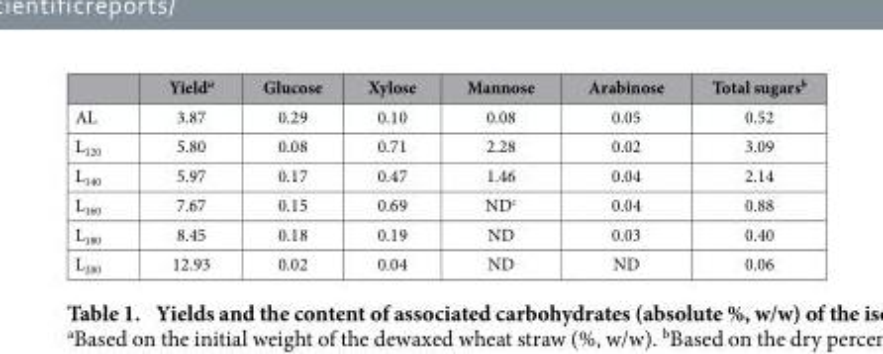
<table><thead><tr><td></td><td>Yield<sup>a</sup></td><td>Glucose</td><td>Xylose</td><td>Mannose</td><td>Arabinose</td><td>Total sugars<sup>b</sup></td></tr></thead><tbody><tr><td>AL</td><td>3.87</td><td>0.29</td><td>0.10</td><td>0.08</td><td>0.05</td><td>0.52</td></tr><tr><td>L<sub>120</sub></td><td>5.80</td><td>0.08</td><td>0.71</td><td>2.28</td><td>0.02</td><td>3.09</td></tr><tr><td>L<sub>140</sub></td><td>5.97</td><td>0.17</td><td>0.47</td><td>1.46</td><td>0.04</td><td>2.14</td></tr><tr><td>L<sub>160</sub></td><td>7.67</td><td>0.15</td><td>0.69</td><td>ND<sup>c</sup></td><td>0.04</td><td>0.88</td></tr><tr><td>L<sub>180</sub></td><td>8.45</td><td>0.18</td><td>0.19</td><td>ND</td><td>0.03</td><td>0.40</td></tr><tr><td>L<sub>200</sub></td><td>12.93</td><td>0.02</td><td>0.04</td><td>ND</td><td>ND</td><td>0.06</td></tr></tbody></table>